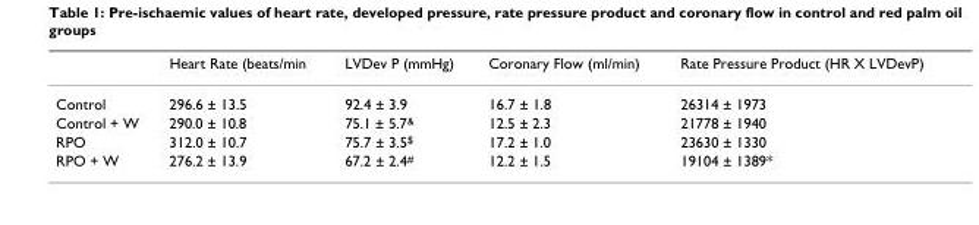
<table><thead><tr><td></td><td>Heart Rate (beats/min</td><td>LVDev P (mmHg)</td><td>Coronary Flow (ml/min)</td><td>Rate Pressure Product (HR X LVDevP)</td></tr></thead><tbody><tr><td>Control</td><td>296.6 ± 13.5</td><td>92.4 ± 3.9</td><td>16.7 ± 1.8</td><td>26314 ± 1973</td></tr><tr><td>Control + W</td><td>290.0 ± 10.8</td><td>75.1 ± 5.7<sup>&amp;</sup></td><td>12.5 ± 2.3</td><td>21778 ± 1940</td></tr><tr><td>RPO</td><td>312.0 ± 10.7</td><td>75.7 ± 3.5<sup>$</sup></td><td>17.2 ± 1.0</td><td>23630 ± 1330</td></tr><tr><td>RPO + W</td><td>276.2 ± 13.9</td><td>67.2 ± 2.4<sup>#</sup></td><td>12.2 ± 1.5</td><td>19104 ± 1389*</td></tr></tbody></table>